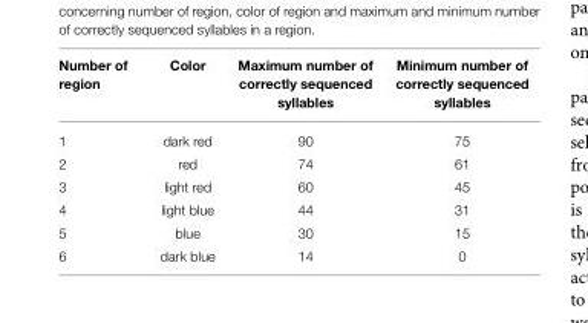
<table><thead><tr><td>Number of region</td><td>Color</td><td>Maximum number of correctly sequenced syllables</td><td>Minimum number of correctly sequenced syllables</td></tr></thead><tbody><tr><td>1</td><td>dark red</td><td>90</td><td>75</td></tr><tr><td>2</td><td>red</td><td>74</td><td>61</td></tr><tr><td>3</td><td>light red</td><td>60</td><td>45</td></tr><tr><td>4</td><td>light blue</td><td>44</td><td>31</td></tr><tr><td>5</td><td>blue</td><td>30</td><td>15</td></tr><tr><td>6</td><td>dark blue</td><td>14</td><td>0</td></tr></tbody></table>